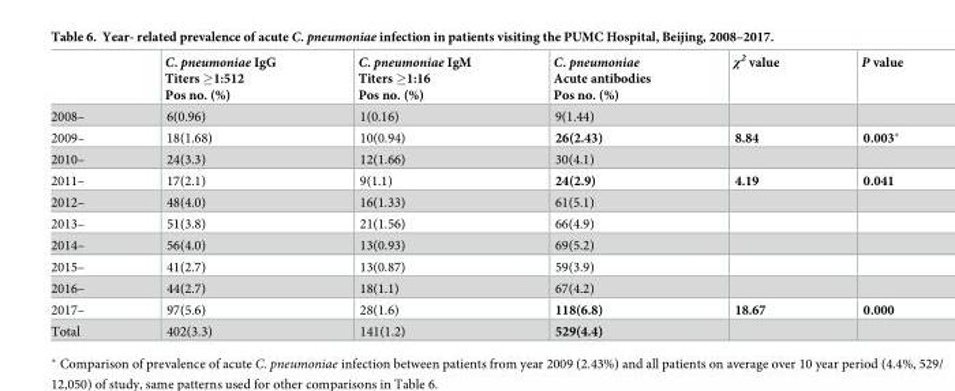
<table><thead><tr><td></td><td>C. pneumoniae IgG Titers ≥1:512 Pos no. (%)</td><td>C. pneumoniae IgM Titers ≥1:16 Pos no. (%)</td><td>C. pneumoniae Acute antibodies Pos no. (%)</td><td>χ<sup>2</sup> value</td><td>P value</td></tr></thead><tbody><tr><td>2008–</td><td>6(0.96)</td><td>1(0.16)</td><td>9(1.44)</td><td></td><td></td></tr><tr><td>2009–</td><td>18(1.68)</td><td>10(0.94)</td><td>26(2.43)</td><td>8.84</td><td>0.003*</td></tr><tr><td>2010–</td><td>24(3.3)</td><td>12(1.66)</td><td>30(4.1)</td><td></td><td></td></tr><tr><td>2011–</td><td>17(2.1)</td><td>9(1.1)</td><td>24(2.9)</td><td>4.19</td><td>0.041</td></tr><tr><td>2012–</td><td>48(4.0)</td><td>16(1.33)</td><td>61(5.1)</td><td></td><td></td></tr><tr><td>2013–</td><td>51(3.8)</td><td>21(1.56)</td><td>66(4.9)</td><td></td><td></td></tr><tr><td>2014–</td><td>56(4.0)</td><td>13(0.93)</td><td>69(5.2)</td><td></td><td></td></tr><tr><td>2015–</td><td>41(2.7)</td><td>13(0.87)</td><td>59(3.9)</td><td></td><td></td></tr><tr><td>2016–</td><td>44(2.7)</td><td>18(1.1)</td><td>67(4.2)</td><td></td><td></td></tr><tr><td>2017–</td><td>97(5.6)</td><td>28(1.6)</td><td>118(6.8)</td><td>18.67</td><td>0.000</td></tr><tr><td>Total</td><td>402(3.3)</td><td>141(1.2)</td><td>529(4.4)</td><td></td><td></td></tr></tbody></table>